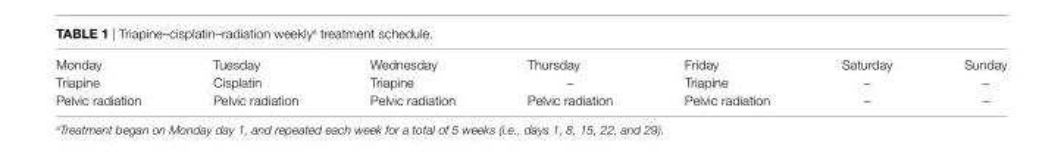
<table><tbody><tr><td>Monday</td><td>Tuesday</td><td>Wednesday</td><td>Thursday</td><td>Friday</td><td>Saturday</td><td>Sunday</td></tr><tr><td>Triapine</td><td>Cisplatin</td><td>Triapine</td><td>–</td><td>Triapine</td><td>–</td><td>–</td></tr><tr><td>Pelvic radiation</td><td>Pelvic radiation</td><td>Pelvic radiation</td><td>Pelvic radiation</td><td>Pelvic radiation</td><td>–</td><td>–</td></tr></tbody></table>